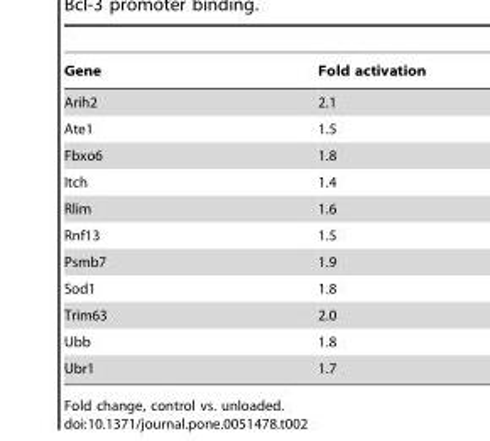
<table><thead><tr><td>Gene</td><td>Fold activation</td></tr></thead><tbody><tr><td>Arih2</td><td>2.1</td></tr><tr><td>Ate1</td><td>1.5</td></tr><tr><td>Fbxo6</td><td>1.8</td></tr><tr><td>Itch</td><td>1.4</td></tr><tr><td>Rlim</td><td>1.6</td></tr><tr><td>Rnf13</td><td>1.5</td></tr><tr><td>Psmb7</td><td>1.9</td></tr><tr><td>Sod1</td><td>1.8</td></tr><tr><td>Trim63</td><td>2.0</td></tr><tr><td>Ubb</td><td>1.8</td></tr><tr><td>Ubr1</td><td>1.7</td></tr></tbody></table>